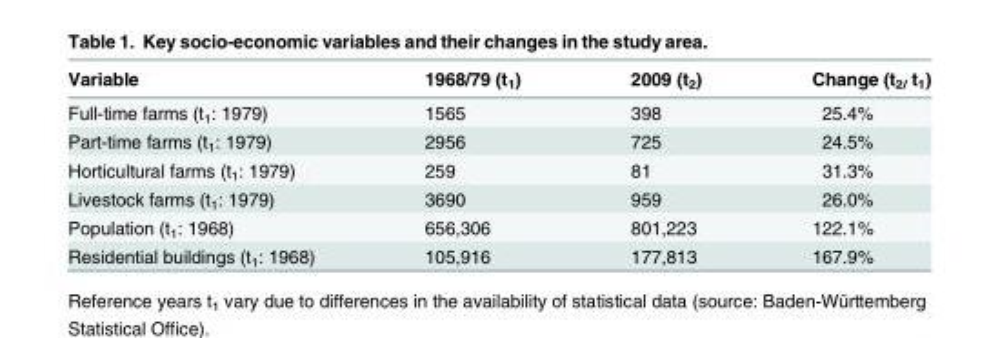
<table><thead><tr><td>Variable</td><td>1968/79 (t<sub>1</sub>)</td><td>2009 (t<sub>2</sub>)</td><td>Change (t<sub>2/</sub> t<sub>1</sub>)</td></tr></thead><tbody><tr><td>Full-time farms (t<sub>1</sub>: 1979)</td><td>1565</td><td>398</td><td>25.4%</td></tr><tr><td>Part-time farms (t<sub>1</sub>: 1979)</td><td>2956</td><td>725</td><td>24.5%</td></tr><tr><td>Horticultural farms (t<sub>1</sub>: 1979)</td><td>259</td><td>81</td><td>31.3%</td></tr><tr><td>Livestock farms (t<sub>1</sub>: 1979)</td><td>3690</td><td>959</td><td>26.0%</td></tr><tr><td>Population (t<sub>1</sub>: 1968)</td><td>656,306</td><td>801,223</td><td>122.1%</td></tr><tr><td>Residential buildings (t<sub>1</sub>: 1968)</td><td>105,916</td><td>177,813</td><td>167.9%</td></tr></tbody></table>